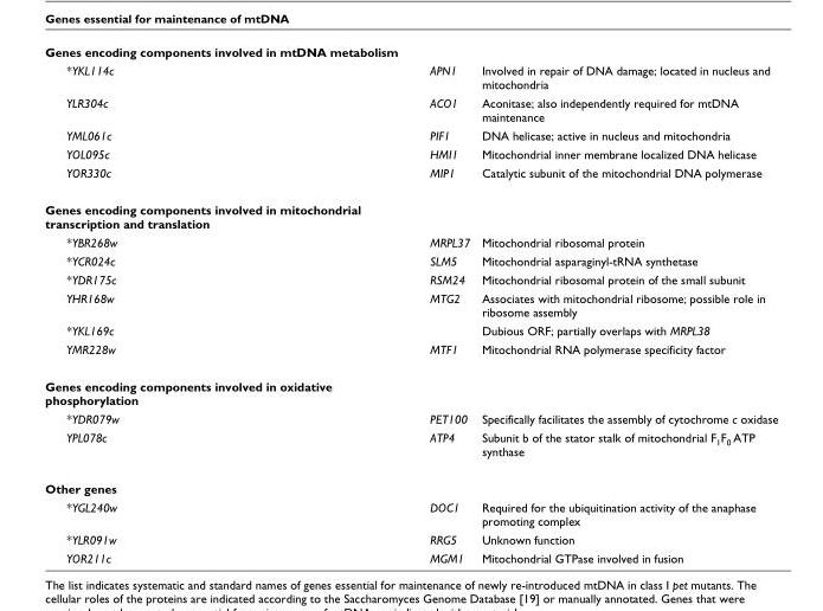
<table><tbody><tr><td colspan="3">Genes encoding components involved in mtDNA metabolism</td></tr><tr><td>*YKL114c</td><td>APN1</td><td>Involved in repair of DNA damage; located in nucleus and mitochondria</td></tr><tr><td>YLR304c</td><td>ACO1</td><td>Aconitase; also independently required for mtDNA maintenance</td></tr><tr><td>YML061c</td><td>PIF1</td><td>DNA helicase; active in nucleus and mitochondria</td></tr><tr><td>YOL095c</td><td>HMI1</td><td>Mitochondrial inner membrane localized DNA helicase</td></tr><tr><td>YOR330c</td><td>MIP1</td><td>Catalytic subunit of the mitochondrial DNA polymerase</td></tr><tr><td colspan="3">Genes encoding components involved in mitochondrial transcription and translation</td></tr><tr><td>*YBR268w</td><td>MRPL37</td><td>Mitochondrial ribosomal protein</td></tr><tr><td>*YCR024c</td><td>SLM5</td><td>Mitochondrial asparaginyl-tRNA synthetase</td></tr><tr><td>*YDR175c</td><td>RSM24</td><td>Mitochondrial ribosomal protein of the small subunit</td></tr><tr><td>YHR168w</td><td>MTG2</td><td>Associates with mitochondrial ribosome; possible role in ribosome assembly</td></tr><tr><td>*YKL169c</td><td></td><td>Dubious ORF; partially overlaps with MRPL38</td></tr><tr><td>YMR228w</td><td>MTF1</td><td>Mitochondrial RNA polymerase specificity factor</td></tr><tr><td colspan="3">Genes encoding components involved in oxidative phosphorylation</td></tr><tr><td>*YDR079w</td><td>PET100</td><td>Specifically facilitates the assembly of cytochrome c oxidase</td></tr><tr><td>YPL078c</td><td>ATP4</td><td>Subunit b of the stator stalk of mitochondrial F<sub>1</sub>F<sub>0</sub> ATP synthase</td></tr><tr><td colspan="3">Other genes</td></tr><tr><td>*YGL240w</td><td>DOC1</td><td>Required for the ubiquitination activity of the anaphase promoting complex</td></tr><tr><td>*YLR091w</td><td>RRG5</td><td>Unknown function</td></tr><tr><td>YOR211c</td><td>MGM1</td><td>Mitochondrial GTPase involved in fusion</td></tr></tbody></table>